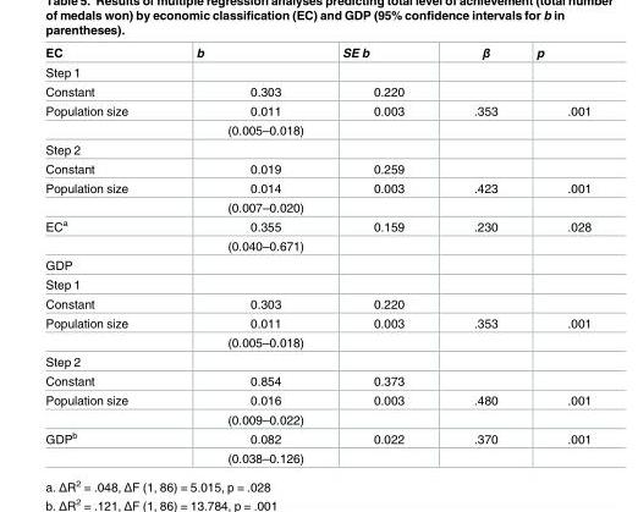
<table><thead><tr><td>EC</td><td>b</td><td>SE b</td><td>β</td><td>p</td></tr></thead><tbody><tr><td colspan="5">Step 1</td></tr><tr><td>Constant</td><td>0.303</td><td>0.220</td><td></td><td></td></tr><tr><td rowspan="2">Population size</td><td>0.011</td><td>0.003</td><td>.353</td><td>.001</td></tr><tr><td>(0.005–0.018)</td><td></td><td></td><td></td></tr><tr><td colspan="5">Step 2</td></tr><tr><td>Constant</td><td>0.019</td><td>0.259</td><td></td><td></td></tr><tr><td rowspan="2">Population size</td><td>0.014</td><td>0.003</td><td>.423</td><td>.001</td></tr><tr><td>(0.007–0.020)</td><td></td><td></td><td></td></tr><tr><td rowspan="2">EC<sup>a</sup></td><td>0.355</td><td>0.159</td><td>.230</td><td>.028</td></tr><tr><td>(0.040–0.671)</td><td></td><td></td><td></td></tr><tr><td colspan="5">GDP</td></tr><tr><td colspan="5">Step 1</td></tr><tr><td>Constant</td><td>0.303</td><td>0.220</td><td></td><td></td></tr><tr><td rowspan="2">Population size</td><td>0.011</td><td>0.003</td><td>.353</td><td>.001</td></tr><tr><td>(0.005–0.018)</td><td></td><td></td><td></td></tr><tr><td colspan="5">Step 2</td></tr><tr><td>Constant</td><td>0.854</td><td>0.373</td><td></td><td></td></tr><tr><td rowspan="2">Population size</td><td>0.016</td><td>0.003</td><td>.480</td><td>.001</td></tr><tr><td>(0.009–0.022)</td><td></td><td></td><td></td></tr><tr><td rowspan="2">GDP<sup>b</sup></td><td>0.082</td><td>0.022</td><td>.370</td><td>.001</td></tr><tr><td>(0.038–0.126)</td><td></td><td></td><td></td></tr></tbody></table>